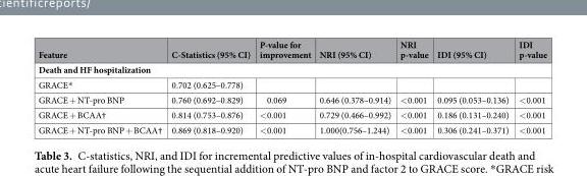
<table><thead><tr><td>Feature</td><td>C-Statistics (95% CI)</td><td>P-value for improvement</td><td>NRI (95% CI)</td><td>NRI p-value</td><td>IDI (95% CI)</td><td>IDI p-value</td></tr></thead><tbody><tr><td colspan="7">Death and HF hospitalization</td></tr><tr><td>GRACE*</td><td>0.702 (0.625–0.778)</td><td></td><td></td><td></td><td></td><td></td></tr><tr><td>GRACE + NT-pro BNP</td><td>0.760 (0.692–0.829)</td><td>0.069</td><td>0.646 (0.378–0.914)</td><td>&lt;0.001</td><td>0.095 (0.053–0.136)</td><td>&lt;0.001</td></tr><tr><td>GRACE + BCAA†</td><td>0.814 (0.753–0.876)</td><td>&lt;0.001</td><td>0.729 (0.466–0.992)</td><td>&lt;0.001</td><td>0.186 (0.131–0.240)</td><td>&lt;0.001</td></tr><tr><td>GRACE + NT-pro BNP + BCAA†</td><td>0.869 (0.818–0.920)</td><td>&lt;0.001</td><td>1.000(0.756–1.244)</td><td>&lt;0.001</td><td>0.306 (0.241–0.371)</td><td>&lt;0.001</td></tr></tbody></table>